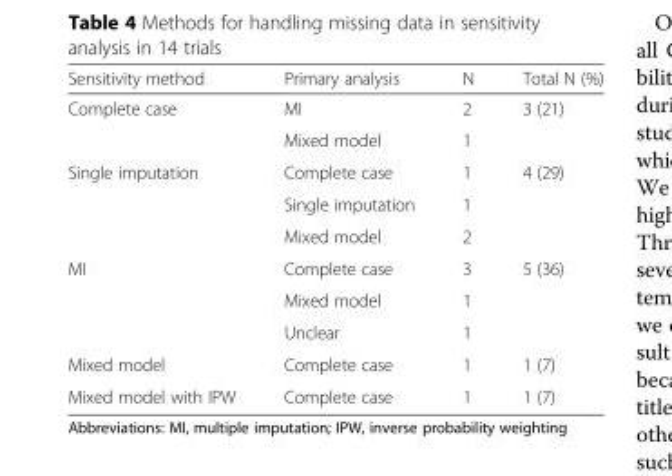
<table><thead><tr><td>Sensitivity method</td><td>Primary analysis</td><td>N</td><td>Total N (%)</td></tr></thead><tbody><tr><td rowspan="2">Complete case</td><td>MI</td><td>2</td><td rowspan="2">3 (21)</td></tr><tr><td>Mixed model</td><td>1</td></tr><tr><td rowspan="3">Single imputation</td><td>Complete case</td><td>1</td><td rowspan="3">4 (29)</td></tr><tr><td>Single imputation</td><td>1</td></tr><tr><td>Mixed model</td><td>2</td></tr><tr><td rowspan="3">MI</td><td>Complete case</td><td>3</td><td rowspan="3">5 (36)</td></tr><tr><td>Mixed model</td><td>1</td></tr><tr><td>Unclear</td><td>1</td></tr><tr><td>Mixed model</td><td>Complete case</td><td>1</td><td>1 (7)</td></tr><tr><td>Mixed model with IPW</td><td>Complete case</td><td>1</td><td>1 (7)</td></tr></tbody></table>